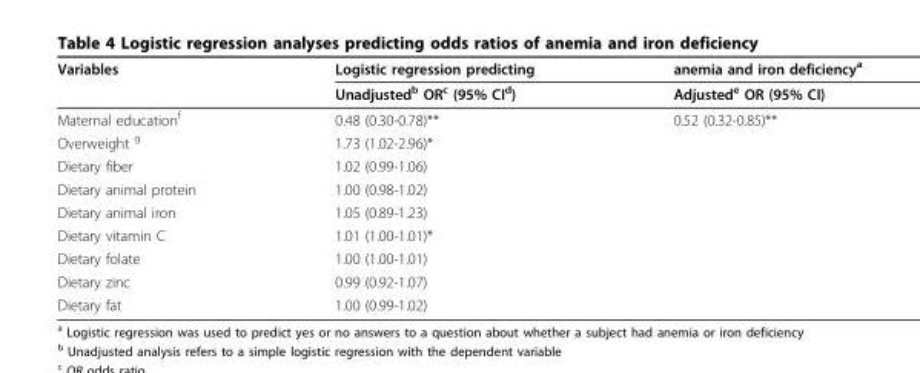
<table><thead><tr><td rowspan="2">Variables</td><td rowspan="2">Logistic regression predicting Unadjusted<sup>b</sup> OR<sup>c</sup> (95% CI<sup>d</sup>)</td><td rowspan="2">anemia and iron deficiency<sup>a</sup> Adjusted<sup>e</sup> OR (95% CI)</td></tr><tr></tr></thead><tbody><tr><td>Maternal education<sup>f</sup></td><td>0.48 (0.30-0.78)**</td><td>0.52 (0.32-0.85)**</td></tr><tr><td>Overweight <sup>g</sup></td><td>1.73 (1.02-2.96)*</td><td></td></tr><tr><td>Dietary fiber</td><td>1.02 (0.99-1.06)</td><td></td></tr><tr><td>Dietary animal protein</td><td>1.00 (0.98-1.02)</td><td></td></tr><tr><td>Dietary animal iron</td><td>1.05 (0.89-1.23)</td><td></td></tr><tr><td>Dietary vitamin C</td><td>1.01 (1.00-1.01)*</td><td></td></tr><tr><td>Dietary folate</td><td>1.00 (1.00-1.01)</td><td></td></tr><tr><td>Dietary zinc</td><td>0.99 (0.92-1.07)</td><td></td></tr><tr><td>Dietary fat</td><td>1.00 (0.99-1.02)</td><td></td></tr></tbody></table>